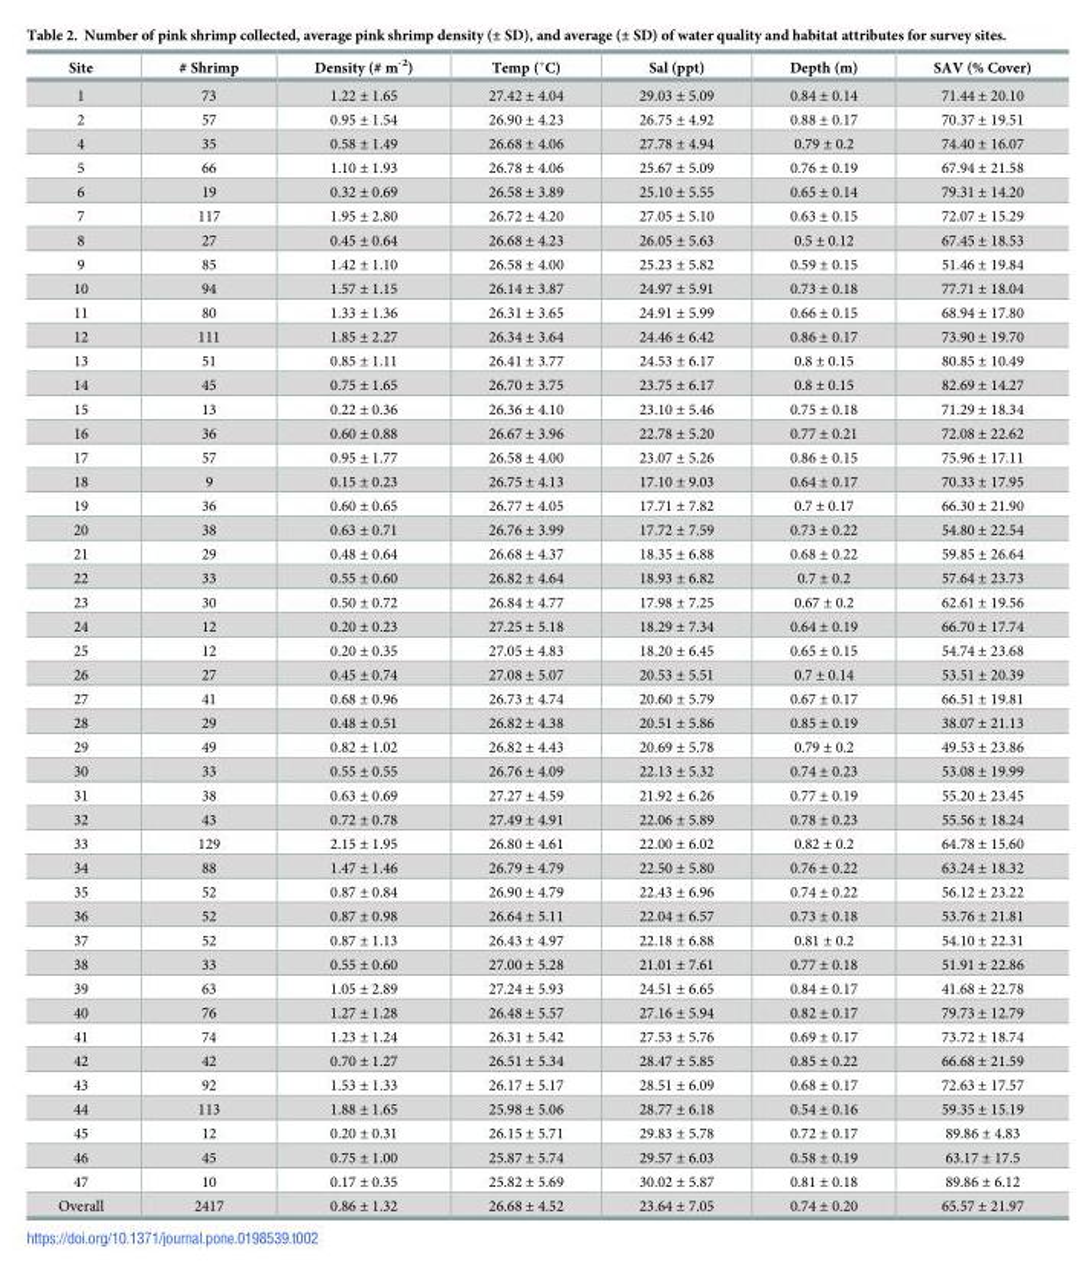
<table><thead><tr><td>Site</td><td># Shrimp</td><td>Density (# m<sup>-2</sup>)</td><td>Temp (˚C)</td><td>Sal (ppt)</td><td>Depth (m)</td><td>SAV (% Cover)</td></tr></thead><tbody><tr><td>1</td><td>73</td><td>1.22 ± 1.65</td><td>27.42 ± 4.04</td><td>29.03 ± 5.09</td><td>0.84 ± 0.14</td><td>71.44 ± 20.10</td></tr><tr><td>2</td><td>57</td><td>0.95 ± 1.54</td><td>26.90 ± 4.23</td><td>26.75 ± 4.92</td><td>0.88 ± 0.17</td><td>70.37 ± 19.51</td></tr><tr><td>4</td><td>35</td><td>0.58 ± 1.49</td><td>26.68 ± 4.06</td><td>27.78 ± 4.94</td><td>0.79 ± 0.2</td><td>74.40 ± 16.07</td></tr><tr><td>5</td><td>66</td><td>1.10 ± 1.93</td><td>26.78 ± 4.06</td><td>25.67 ± 5.09</td><td>0.76 ± 0.19</td><td>67.94 ± 21.58</td></tr><tr><td>6</td><td>19</td><td>0.32 ± 0.69</td><td>26.58 ± 3.89</td><td>25.10 ± 5.55</td><td>0.65 ± 0.14</td><td>79.31 ± 14.20</td></tr><tr><td>7</td><td>117</td><td>1.95 ± 2.80</td><td>26.72 ± 4.20</td><td>27.05 ± 5.10</td><td>0.63 ± 0.15</td><td>72.07 ± 15.29</td></tr><tr><td>8</td><td>27</td><td>0.45 ± 0.64</td><td>26.68 ± 4.23</td><td>26.05 ± 5.63</td><td>0.5 ± 0.12</td><td>67.45 ± 18.53</td></tr><tr><td>9</td><td>85</td><td>1.42 ± 1.10</td><td>26.58 ± 4.00</td><td>25.23 ± 5.82</td><td>0.59 ± 0.15</td><td>51.46 ± 19.84</td></tr><tr><td>10</td><td>94</td><td>1.57 ± 1.15</td><td>26.14 ± 3.87</td><td>24.97 ± 5.91</td><td>0.73 ± 0.18</td><td>77.71 ± 18.04</td></tr><tr><td>11</td><td>80</td><td>1.33 ± 1.36</td><td>26.31 ± 3.65</td><td>24.91 ± 5.99</td><td>0.66 ± 0.15</td><td>68.94 ± 17.80</td></tr><tr><td>12</td><td>111</td><td>1.85 ± 2.27</td><td>26.34 ± 3.64</td><td>24.46 ± 6.42</td><td>0.86 ± 0.17</td><td>73.90 ± 19.70</td></tr><tr><td>13</td><td>51</td><td>0.85 ± 1.11</td><td>26.41 ± 3.77</td><td>24.53 ± 6.17</td><td>0.8 ± 0.15</td><td>80.85 ± 10.49</td></tr><tr><td>14</td><td>45</td><td>0.75 ± 1.65</td><td>26.70 ± 3.75</td><td>23.75 ± 6.17</td><td>0.8 ± 0.15</td><td>82.69 ± 14.27</td></tr><tr><td>15</td><td>13</td><td>0.22 ± 0.36</td><td>26.36 ± 4.10</td><td>23.10 ± 5.46</td><td>0.75 ± 0.18</td><td>71.29 ± 18.34</td></tr><tr><td>16</td><td>36</td><td>0.60 ± 0.88</td><td>26.67 ± 3.96</td><td>22.78 ± 5.20</td><td>0.77 ± 0.21</td><td>72.08 ± 22.62</td></tr><tr><td>17</td><td>57</td><td>0.95 ± 1.77</td><td>26.58 ± 4.00</td><td>23.07 ± 5.26</td><td>0.86 ± 0.15</td><td>75.96 ± 17.11</td></tr><tr><td>18</td><td>9</td><td>0.15 ± 0.23</td><td>26.75 ± 4.13</td><td>17.10 ± 9.03</td><td>0.64 ± 0.17</td><td>70.33 ± 17.95</td></tr><tr><td>19</td><td>36</td><td>0.60 ± 0.65</td><td>26.77 ± 4.05</td><td>17.71 ± 7.82</td><td>0.7 ± 0.17</td><td>66.30 ± 21.90</td></tr><tr><td>20</td><td>38</td><td>0.63 ± 0.71</td><td>26.76 ± 3.99</td><td>17.72 ± 7.59</td><td>0.73 ± 0.22</td><td>54.80 ± 22.54</td></tr><tr><td>21</td><td>29</td><td>0.48 ± 0.64</td><td>26.68 ± 4.37</td><td>18.35 ± 6.88</td><td>0.68 ± 0.22</td><td>59.85 ± 26.64</td></tr><tr><td>22</td><td>33</td><td>0.55 ± 0.60</td><td>26.82 ± 4.64</td><td>18.93 ± 6.82</td><td>0.7 ± 0.2</td><td>57.64 ± 23.73</td></tr><tr><td>23</td><td>30</td><td>0.50 ± 0.72</td><td>26.84 ± 4.77</td><td>17.98 ± 7.25</td><td>0.67 ± 0.2</td><td>62.61 ± 19.56</td></tr><tr><td>24</td><td>12</td><td>0.20 ± 0.23</td><td>27.25 ± 5.18</td><td>18.29 ± 7.34</td><td>0.64 ± 0.19</td><td>66.70 ± 17.74</td></tr><tr><td>25</td><td>12</td><td>0.20 ± 0.35</td><td>27.05 ± 4.83</td><td>18.20 ± 6.45</td><td>0.65 ± 0.15</td><td>54.74 ± 23.68</td></tr><tr><td>26</td><td>27</td><td>0.45 ± 0.74</td><td>27.08 ± 5.07</td><td>20.53 ± 5.51</td><td>0.7 ± 0.14</td><td>53.51 ± 20.39</td></tr><tr><td>27</td><td>41</td><td>0.68 ± 0.96</td><td>26.73 ± 4.74</td><td>20.60 ± 5.79</td><td>0.67 ± 0.17</td><td>66.51 ± 19.81</td></tr><tr><td>28</td><td>29</td><td>0.48 ± 0.51</td><td>26.82 ± 4.38</td><td>20.51 ± 5.86</td><td>0.85 ± 0.19</td><td>38.07 ± 21.13</td></tr><tr><td>29</td><td>49</td><td>0.82 ± 1.02</td><td>26.82 ± 4.43</td><td>20.69 ± 5.78</td><td>0.79 ± 0.2</td><td>49.53 ± 23.86</td></tr><tr><td>30</td><td>33</td><td>0.55 ± 0.55</td><td>26.76 ± 4.09</td><td>22.13 ± 5.32</td><td>0.74 ± 0.23</td><td>53.08 ± 19.99</td></tr><tr><td>31</td><td>38</td><td>0.63 ± 0.69</td><td>27.27 ± 4.59</td><td>21.92 ± 6.26</td><td>0.77 ± 0.19</td><td>55.20 ± 23.45</td></tr><tr><td>32</td><td>43</td><td>0.72 ± 0.78</td><td>27.49 ± 4.91</td><td>22.06 ± 5.89</td><td>0.78 ± 0.23</td><td>55.56 ± 18.24</td></tr><tr><td>33</td><td>129</td><td>2.15 ± 1.95</td><td>26.80 ± 4.61</td><td>22.00 ± 6.02</td><td>0.82 ± 0.2</td><td>64.78 ± 15.60</td></tr><tr><td>34</td><td>88</td><td>1.47 ± 1.46</td><td>26.79 ± 4.79</td><td>22.50 ± 5.80</td><td>0.76 ± 0.22</td><td>63.24 ± 18.32</td></tr><tr><td>35</td><td>52</td><td>0.87 ± 0.84</td><td>26.90 ± 4.79</td><td>22.43 ± 6.96</td><td>0.74 ± 0.22</td><td>56.12 ± 23.22</td></tr><tr><td>36</td><td>52</td><td>0.87 ± 0.98</td><td>26.64 ± 5.11</td><td>22.04 ± 6.57</td><td>0.73 ± 0.18</td><td>53.76 ± 21.81</td></tr><tr><td>37</td><td>52</td><td>0.87 ± 1.13</td><td>26.43 ± 4.97</td><td>22.18 ± 6.88</td><td>0.81 ± 0.2</td><td>54.10 ± 22.31</td></tr><tr><td>38</td><td>33</td><td>0.55 ± 0.60</td><td>27.00 ± 5.28</td><td>21.01 ± 7.61</td><td>0.77 ± 0.18</td><td>51.91 ± 22.86</td></tr><tr><td>39</td><td>63</td><td>1.05 ± 2.89</td><td>27.24 ± 5.93</td><td>24.51 ± 6.65</td><td>0.84 ± 0.17</td><td>41.68 ± 22.78</td></tr><tr><td>40</td><td>76</td><td>1.27 ± 1.28</td><td>26.48 ± 5.57</td><td>27.16 ± 5.94</td><td>0.82 ± 0.17</td><td>79.73 ± 12.79</td></tr><tr><td>41</td><td>74</td><td>1.23 ± 1.24</td><td>26.31 ± 5.42</td><td>27.53 ± 5.76</td><td>0.69 ± 0.17</td><td>73.72 ± 18.74</td></tr><tr><td>42</td><td>42</td><td>0.70 ± 1.27</td><td>26.51 ± 5.34</td><td>28.47 ± 5.85</td><td>0.85 ± 0.22</td><td>66.68 ± 21.59</td></tr><tr><td>43</td><td>92</td><td>1.53 ± 1.33</td><td>26.17 ± 5.17</td><td>28.51 ± 6.09</td><td>0.68 ± 0.17</td><td>72.63 ± 17.57</td></tr><tr><td>44</td><td>113</td><td>1.88 ± 1.65</td><td>25.98 ± 5.06</td><td>28.77 ± 6.18</td><td>0.54 ± 0.16</td><td>59.35 ± 15.19</td></tr><tr><td>45</td><td>12</td><td>0.20 ± 0.31</td><td>26.15 ± 5.71</td><td>29.83 ± 5.78</td><td>0.72 ± 0.17</td><td>89.86 ± 4.83</td></tr><tr><td>46</td><td>45</td><td>0.75 ± 1.00</td><td>25.87 ± 5.74</td><td>29.57 ± 6.03</td><td>0.58 ± 0.19</td><td>63.17 ± 17.5</td></tr><tr><td>47</td><td>10</td><td>0.17 ± 0.35</td><td>25.82 ± 5.69</td><td>30.02 ± 5.87</td><td>0.81 ± 0.18</td><td>89.86 ± 6.12</td></tr><tr><td>Overall</td><td>2417</td><td>0.86 ± 1.32</td><td>26.68 ± 4.52</td><td>23.64 ± 7.05</td><td>0.74 ± 0.20</td><td>65.57 ± 21.97</td></tr></tbody></table>